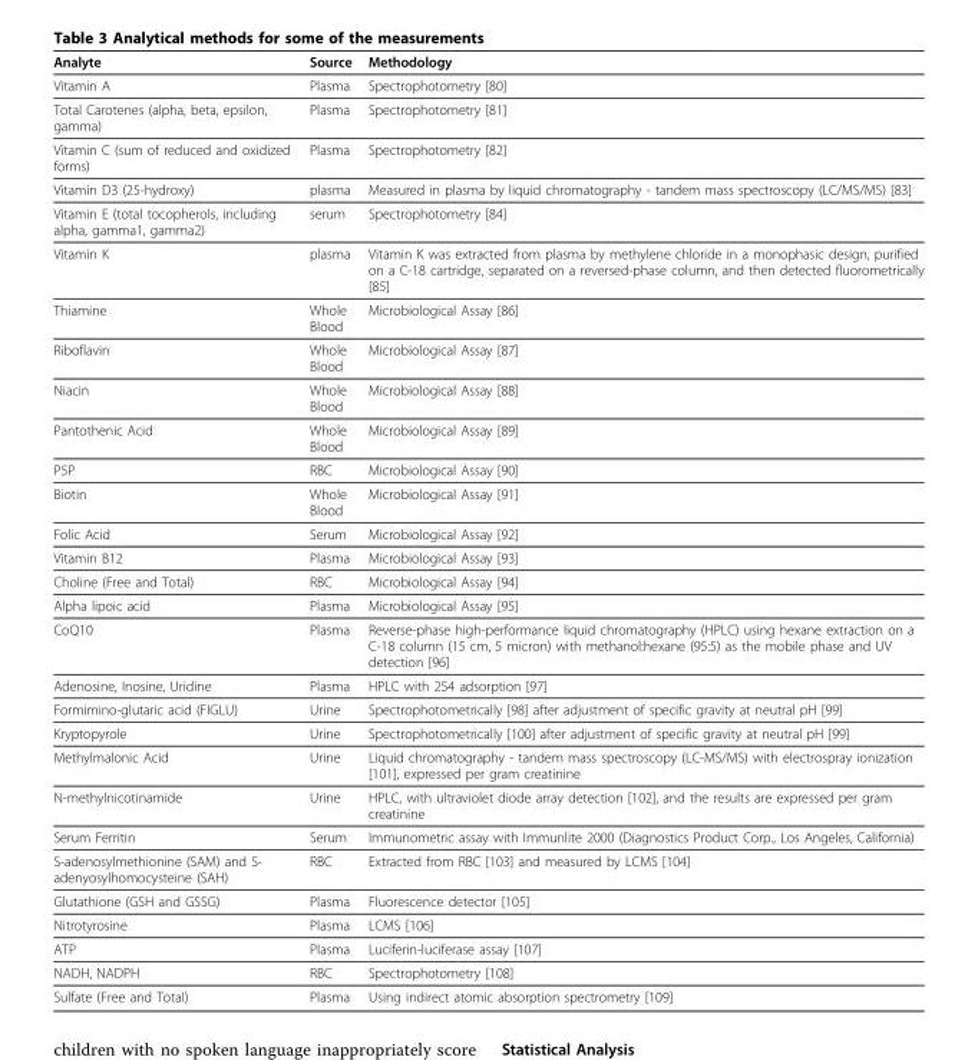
<table><thead><tr><td>Analyte</td><td>Source</td><td>Methodology</td></tr></thead><tbody><tr><td>Vitamin A</td><td>Plasma</td><td>Spectrophotometry [80]</td></tr><tr><td>Total Carotenes (alpha, beta, epsilon, gamma)</td><td>Plasma</td><td>Spectrophotometry [81]</td></tr><tr><td>Vitamin C (sum of reduced and oxidized forms)</td><td>Plasma</td><td>Spectrophotometry [82]</td></tr><tr><td>Vitamin D3 (25-hydroxy)</td><td>plasma</td><td>Measured in plasma by liquid chromatography - tandem mass spectroscopy (LC/MS/MS) [83]</td></tr><tr><td>Vitamin E (total tocopherols, including alpha, gamma1, gamma2)</td><td>serum</td><td>Spectrophotometry [84]</td></tr><tr><td>Vitamin K</td><td>plasma</td><td>Vitamin K was extracted from plasma by methylene chloride in a monophasic design, purified on a C-18 cartridge, separated on a reversed-phase column, and then detected fluorometrically [85]</td></tr><tr><td>Thiamine</td><td>Whole Blood</td><td>Microbiological Assay [86]</td></tr><tr><td>Riboflavin</td><td>Whole Blood</td><td>Microbiological Assay [87]</td></tr><tr><td>Niacin</td><td>Whole Blood</td><td>Microbiological Assay [88]</td></tr><tr><td>Pantothenic Acid</td><td>Whole Blood</td><td>Microbiological Assay [89]</td></tr><tr><td>P5P</td><td>RBC</td><td>Microbiological Assay [90]</td></tr><tr><td>Biotin</td><td>Whole Blood</td><td>Microbiological Assay [91]</td></tr><tr><td>Folic Acid</td><td>Serum</td><td>Microbiological Assay [92]</td></tr><tr><td>Vitamin B12</td><td>Plasma</td><td>Microbiological Assay [93]</td></tr><tr><td>Choline (Free and Total)</td><td>RBC</td><td>Microbiological Assay [94]</td></tr><tr><td>Alpha lipoic acid</td><td>Plasma</td><td>Microbiological Assay [95]</td></tr><tr><td>CoQ10</td><td>Plasma</td><td>Reverse-phase high-performance liquid chromatography (HPLC) using hexane extraction on a C-18 column (15 cm, 5 micron) with methanol:hexane (95:5) as the mobile phase and UV detection [96]</td></tr><tr><td>Adenosine, Inosine, Uridine</td><td>Plasma</td><td>HPLC with 254 adsorption [97]</td></tr><tr><td>Formimino-glutaric acid (FIGLU)</td><td>Urine</td><td>Spectrophotometrically [98] after adjustment of specific gravity at neutral pH [99]</td></tr><tr><td>Kryptopyrole</td><td>Urine</td><td>Spectrophotometrically [100] after adjustment of specific gravity at neutral pH [99]</td></tr><tr><td>Methylmalonic Acid</td><td>Urine</td><td>Liquid chromatography - tandem mass spectroscopy (LC-MS/MS) with electrospray ionization [101], expressed per gram creatinine</td></tr><tr><td>N-methylnicotinamide</td><td>Urine</td><td>HPLC, with ultraviolet diode array detection [102], and the results are expressed per gram creatinine</td></tr><tr><td>Serum Ferritin</td><td>Serum</td><td>Immunometric assay with Immunlite 2000 (Diagnostics Product Corp., Los Angeles, California)</td></tr><tr><td>S-adenosylmethionine (SAM) and S- adenyosylhomocysteine (SAH)</td><td>RBC</td><td>Extracted from RBC [103] and measured by LCMS [104]</td></tr><tr><td>Glutathione (GSH and GSSG)</td><td>Plasma</td><td>Fluorescence detector [105]</td></tr><tr><td>Nitrotyrosine</td><td>Plasma</td><td>LCMS [106]</td></tr><tr><td>ATP</td><td>Plasma</td><td>Luciferin-luciferase assay [107]</td></tr><tr><td>NADH, NADPH</td><td>RBC</td><td>Spectrophotometry [108]</td></tr><tr><td>Sulfate (Free and Total)</td><td>Plasma</td><td>Using indirect atomic absorption spectrometry [109]</td></tr></tbody></table>